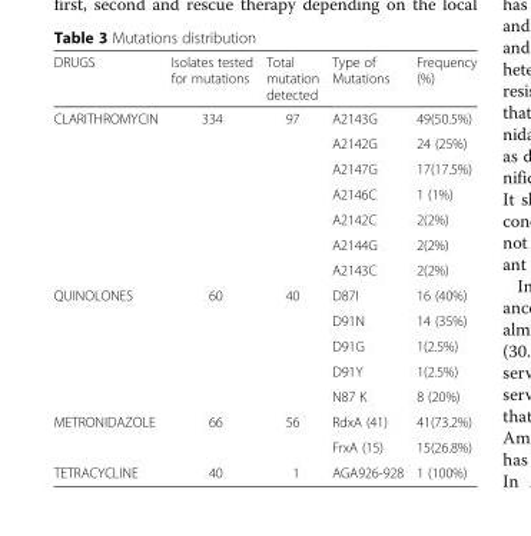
<table><thead><tr><td>DRUGS</td><td>Isolates tested for mutations</td><td>Total mutation detected</td><td>Type of Mutations</td><td>Frequency (%)</td></tr></thead><tbody><tr><td rowspan="7">CLARITHROMYCIN</td><td rowspan="7">334</td><td rowspan="7">97</td><td>A2143G</td><td>49(50.5%)</td></tr><tr><td>A2142G</td><td>24 (25%)</td></tr><tr><td>A2147G</td><td>17(17.5%)</td></tr><tr><td>A2146C</td><td>1 (1%)</td></tr><tr><td>A2142C</td><td>2(2%)</td></tr><tr><td>A2144G</td><td>2(2%)</td></tr><tr><td>A2143C</td><td>2(2%)</td></tr><tr><td rowspan="5">QUINOLONES</td><td rowspan="5">60</td><td rowspan="5">40</td><td>D87I</td><td>16 (40%)</td></tr><tr><td>D91N</td><td>14 (35%)</td></tr><tr><td>D91G</td><td>1(2.5%)</td></tr><tr><td>D91Y</td><td>1(2.5%)</td></tr><tr><td>N87 K</td><td>8 (20%)</td></tr><tr><td rowspan="2">METRONIDAZOLE</td><td rowspan="2">66</td><td rowspan="2">56</td><td>RdxA (41)</td><td>41(73.2%)</td></tr><tr><td>FrxA (15)</td><td>15(26.8%)</td></tr><tr><td>TETRACYCLINE</td><td>40</td><td>1</td><td>AGA926-928</td><td>1 (100%)</td></tr></tbody></table>